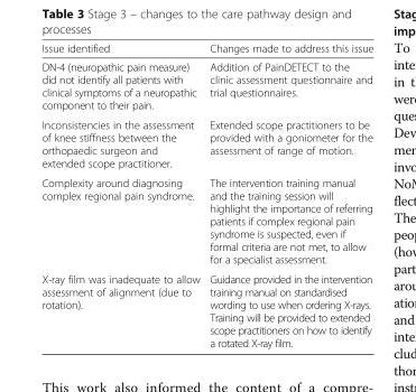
<table><thead><tr><td>Issue identified</td><td>Changes made to address this issue</td></tr></thead><tbody><tr><td>DN-4 (neuropathic pain measure) did not identify all patients with clinical symptoms of a neuropathic component to their pain.</td><td>Addition of PainDETECT to the clinic assessment questionnaire and trial questionnaires.</td></tr><tr><td>Inconsistencies in the assessment of knee stiffness between the orthopaedic surgeon and extended scope practitioner.</td><td>Extended scope practitioners to be provided with a goniometer for the assessment of range of motion.</td></tr><tr><td>Complexity around diagnosing complex regional pain syndrome.</td><td>The intervention training manual and the training session will highlight the importance of referring patients if complex regional pain syndrome is suspected, even if formal criteria are not met, to allow for a specialist assessment.</td></tr><tr><td>X-ray film was inadequate to allow assessment of alignment (due to rotation).</td><td>Guidance provided in the intervention training manual on standardised wording to use when ordering X-rays. Training will be provided to extended scope practitioners on how to identify a rotated X-ray film.</td></tr></tbody></table>